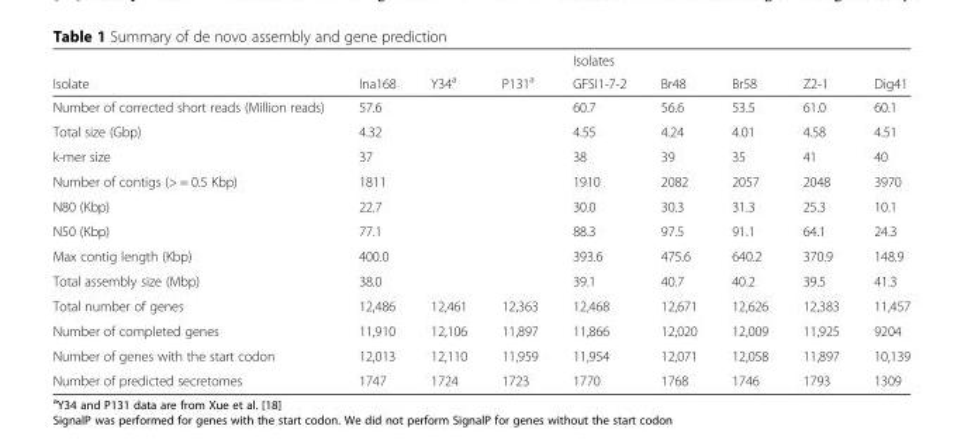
<table><thead><tr><td rowspan="2">Isolate</td><td rowspan="2">Ina168</td><td rowspan="2">Y34<sup>a</sup></td><td rowspan="2">P131<sup>a</sup></td><td rowspan="2">Isolates GFSI1-7-2</td><td rowspan="2">Br48</td><td rowspan="2">Br58</td><td rowspan="2">Z2-1</td><td rowspan="2">Dig41</td></tr><tr></tr></thead><tbody><tr><td>Number of corrected short reads (Million reads)</td><td>57.6</td><td></td><td></td><td>60.7</td><td>56.6</td><td>53.5</td><td>61.0</td><td>60.1</td></tr><tr><td>Total size (Gbp)</td><td>4.32</td><td></td><td></td><td>4.55</td><td>4.24</td><td>4.01</td><td>4.58</td><td>4.51</td></tr><tr><td>k-mer size</td><td>37</td><td></td><td></td><td>38</td><td>39</td><td>35</td><td>41</td><td>40</td></tr><tr><td>Number of contigs (&gt; = 0.5 Kbp)</td><td>1811</td><td></td><td></td><td>1910</td><td>2082</td><td>2057</td><td>2048</td><td>3970</td></tr><tr><td>N80 (Kbp)</td><td>22.7</td><td></td><td></td><td>30.0</td><td>30.3</td><td>31.3</td><td>25.3</td><td>10.1</td></tr><tr><td>N50 (Kbp)</td><td>77.1</td><td></td><td></td><td>88.3</td><td>97.5</td><td>91.1</td><td>64.1</td><td>24.3</td></tr><tr><td>Max contig length (Kbp)</td><td>400.0</td><td></td><td></td><td>393.6</td><td>475.6</td><td>640.2</td><td>370.9</td><td>148.9</td></tr><tr><td>Total assembly size (Mbp)</td><td>38.0</td><td></td><td></td><td>39.1</td><td>40.7</td><td>40.2</td><td>39.5</td><td>41.3</td></tr><tr><td>Total number of genes</td><td>12,486</td><td>12,461</td><td>12,363</td><td>12,468</td><td>12,671</td><td>12,626</td><td>12,383</td><td>11,457</td></tr><tr><td>Number of completed genes</td><td>11,910</td><td>12,106</td><td>11,897</td><td>11,866</td><td>12,020</td><td>12,009</td><td>11,925</td><td>9204</td></tr><tr><td>Number of genes with the start codon</td><td>12,013</td><td>12,110</td><td>11,959</td><td>11,954</td><td>12,071</td><td>12,058</td><td>11,897</td><td>10,139</td></tr><tr><td>Number of predicted secretomes</td><td>1747</td><td>1724</td><td>1723</td><td>1770</td><td>1768</td><td>1746</td><td>1793</td><td>1309</td></tr></tbody></table>